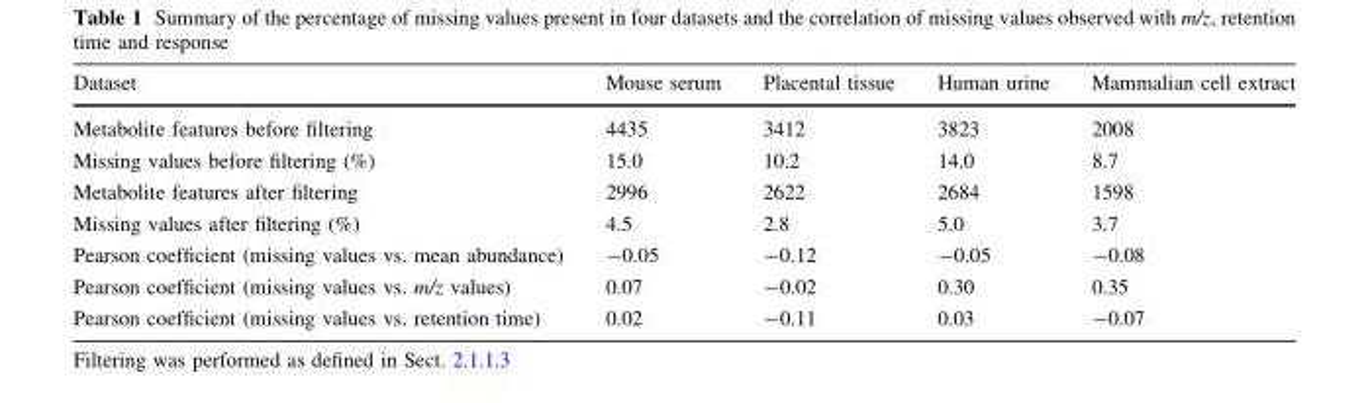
<table><thead><tr><td>Dataset</td><td>Mouse serum</td><td>Placental tissue</td><td>Human urine</td><td>Mammalian cell extract</td></tr></thead><tbody><tr><td>Metabolite features before filtering</td><td>4435</td><td>3412</td><td>3823</td><td>2008</td></tr><tr><td>Missing values before filtering (%)</td><td>15.0</td><td>10.2</td><td>14.0</td><td>8.7</td></tr><tr><td>Metabolite features after filtering</td><td>2996</td><td>2622</td><td>2684</td><td>1598</td></tr><tr><td>Missing values after filtering (%)</td><td>4.5</td><td>2.8</td><td>5.0</td><td>3.7</td></tr><tr><td>Pearson coefficient (missing values vs. mean abundance)</td><td>-0.05</td><td>-0.12</td><td>-0.05</td><td>-0.08</td></tr><tr><td>Pearson coefficient (missing values vs. m/z values)</td><td>0.07</td><td>-0.02</td><td>0.30</td><td>0.35</td></tr><tr><td>Pearson coefficient (missing values vs. retention time)</td><td>0.02</td><td>-0.11</td><td>0.03</td><td>-0.07</td></tr></tbody></table>